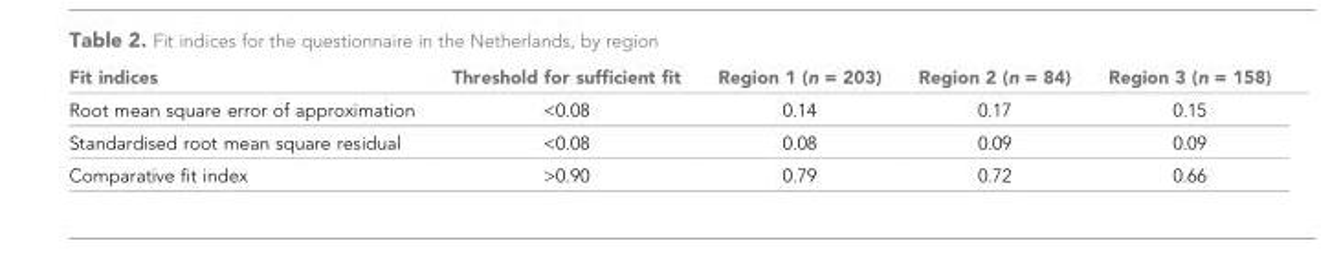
<table><thead><tr><td>Fit indices</td><td>Threshold for sufficient fit</td><td>Region 1 (n = 203)</td><td>Region 2 (n = 84)</td><td>Region 3 (n = 158)</td></tr></thead><tbody><tr><td>Root mean square error of approximation</td><td>&lt;0.08</td><td>0.14</td><td>0.17</td><td>0.15</td></tr><tr><td>Standardised root mean square residual</td><td>&lt;0.08</td><td>0.08</td><td>0.09</td><td>0.09</td></tr><tr><td>Comparative fit index</td><td>&gt;0.90</td><td>0.79</td><td>0.72</td><td>0.66</td></tr></tbody></table>